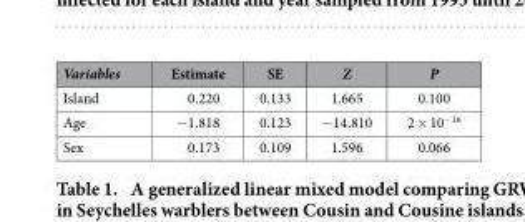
<table><thead><tr><td>Variables</td><td>Estimate</td><td>SE</td><td>Z</td><td>P</td></tr></thead><tbody><tr><td>Island</td><td>0.220</td><td>0.133</td><td>1.665</td><td>0.100</td></tr><tr><td>Age</td><td>− 1.818</td><td>0.123</td><td>− 14.810</td><td>2 × 10<sup>−16</sup></td></tr><tr><td>Sex</td><td>0.173</td><td>0.109</td><td>1.596</td><td>0.066</td></tr></tbody></table>